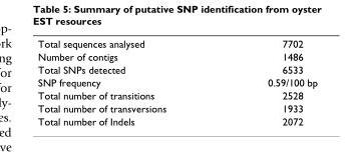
<table><tbody><tr><td>Total sequences analysed</td><td>7702</td></tr><tr><td>Number of contigs</td><td>1486</td></tr><tr><td>Total SNPs detected</td><td>6533</td></tr><tr><td>SNP frequency</td><td>0.59/100 bp</td></tr><tr><td>Total number of transitions</td><td>2528</td></tr><tr><td>Total number of transversions</td><td>1933</td></tr><tr><td>Total number of Indels</td><td>2072</td></tr></tbody></table>